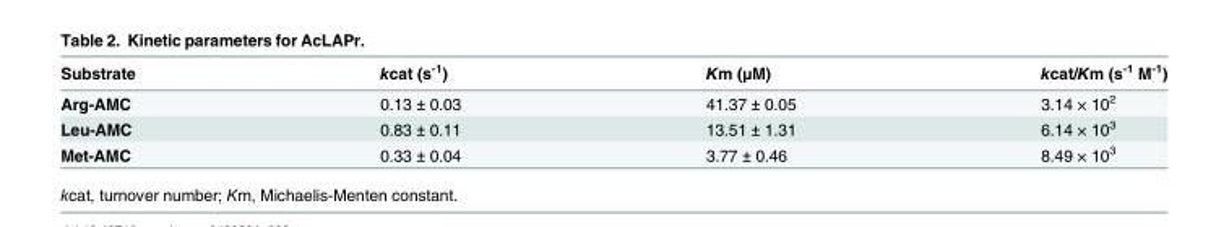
<table><thead><tr><td>Substrate</td><td>kcat (s<sup>-1</sup>)</td><td>Km (μM)</td><td>kcat/Km (s<sup>-1</sup> M<sup>-1</sup>)</td></tr></thead><tbody><tr><td>Arg-AMC</td><td>0.13 ± 0.03</td><td>41.37 ± 0.05</td><td>3.14 × 10<sup>2</sup></td></tr><tr><td>Leu-AMC</td><td>0.83 ± 0.11</td><td>13.51 ± 1.31</td><td>6.14 × 10<sup>3</sup></td></tr><tr><td>Met-AMC</td><td>0.33 ± 0.04</td><td>3.77 ± 0.46</td><td>8.49 × 10<sup>3</sup></td></tr></tbody></table>